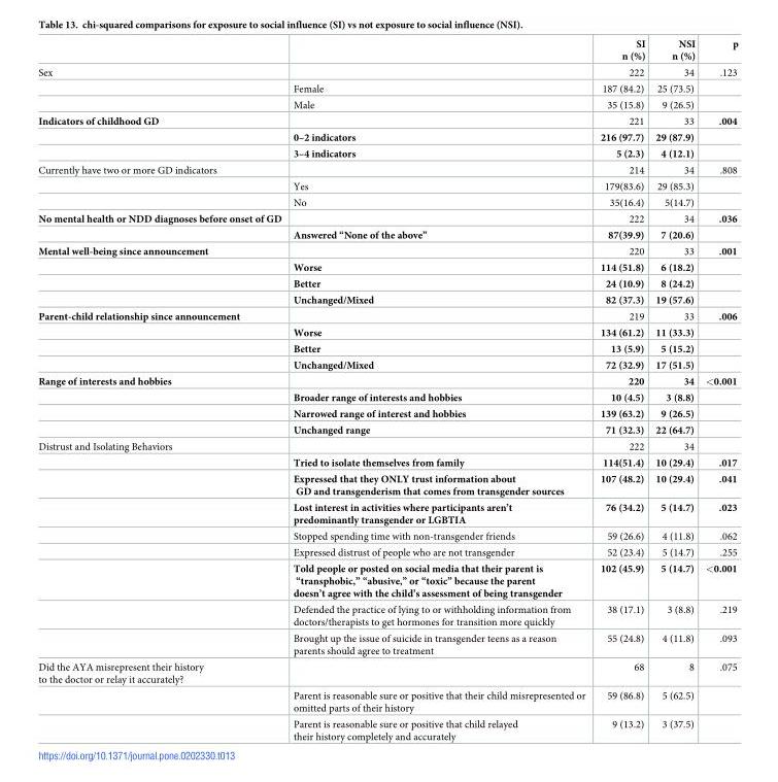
<table><thead><tr><td></td><td></td><td>SI n (%)</td><td>NSI n (%)</td><td>p</td></tr></thead><tbody><tr><td rowspan="3">Sex</td><td></td><td>222</td><td>34</td><td>.123</td></tr><tr><td>Female</td><td>187 (84.2)</td><td>25 (73.5)</td><td></td></tr><tr><td>Male</td><td>35 (15.8)</td><td>9 (26.5)</td><td></td></tr><tr><td rowspan="3">Indicators of childhood GD</td><td></td><td>221</td><td>33</td><td>.004</td></tr><tr><td>0–2 indicators</td><td>216 (97.7)</td><td>29 (87.9)</td><td></td></tr><tr><td>3–4 indicators</td><td>5 (2.3)</td><td>4 (12.1)</td><td></td></tr><tr><td rowspan="3">Currently have two or more GD indicators</td><td></td><td>214</td><td>34</td><td>.808</td></tr><tr><td>Yes</td><td>179(83.6)</td><td>29 (85.3)</td><td></td></tr><tr><td>No</td><td>35(16.4)</td><td>5(14.7)</td><td></td></tr><tr><td rowspan="2">No mental health or NDD diagnoses before onset of GD</td><td></td><td>222</td><td>34</td><td>.036</td></tr><tr><td>Answered “None of the above”</td><td>87(39.9)</td><td>7 (20.6)</td><td></td></tr><tr><td rowspan="4">Mental well-being since announcement</td><td></td><td>220</td><td>33</td><td>.001</td></tr><tr><td>Worse</td><td>114 (51.8)</td><td>6 (18.2)</td><td></td></tr><tr><td>Better</td><td>24 (10.9)</td><td>8 (24.2)</td><td></td></tr><tr><td>Unchanged/Mixed</td><td>82 (37.3)</td><td>19 (57.6)</td><td></td></tr><tr><td rowspan="4">Parent-child relationship since announcement</td><td></td><td>219</td><td>33</td><td>.006</td></tr><tr><td>Worse</td><td>134 (61.2)</td><td>11 (33.3)</td><td></td></tr><tr><td>Better</td><td>13 (5.9)</td><td>5 (15.2)</td><td></td></tr><tr><td>Unchanged/Mixed</td><td>72 (32.9)</td><td>17 (51.5)</td><td></td></tr><tr><td rowspan="4">Range of interests and hobbies</td><td></td><td>220</td><td>34</td><td>&lt;0.001</td></tr><tr><td>Broader range of interests and hobbies</td><td>10 (4.5)</td><td>3 (8.8)</td><td></td></tr><tr><td>Narrowed range of interest and hobbies</td><td>139 (63.2)</td><td>9 (26.5)</td><td></td></tr><tr><td>Unchanged range</td><td>71 (32.3)</td><td>22 (64.7)</td><td></td></tr><tr><td rowspan="9">Distrust and Isolating Behaviors</td><td></td><td>222</td><td>34</td><td></td></tr><tr><td>Tried to isolate themselves from family</td><td>114(51.4)</td><td>10 (29.4)</td><td>.017</td></tr><tr><td>Expressed that they ONLY trust information about GD and transgenderism that comes from transgender sources</td><td>107 (48.2)</td><td>10 (29.4)</td><td>.041</td></tr><tr><td>Lost interest in activities where participants aren’t predominantly transgender or LGBTIA</td><td>76 (34.2)</td><td>5 (14.7)</td><td>.023</td></tr><tr><td>Stopped spending time with non-transgender friends</td><td>59 (26.6)</td><td>4 (11.8)</td><td>.062</td></tr><tr><td>Expressed distrust of people who are not transgender</td><td>52 (23.4)</td><td>5 (14.7)</td><td>.255</td></tr><tr><td>Told people or posted on social media that their parent is “transphobic,” “abusive,” or “toxic” because the parent doesn’t agree with the child’s assessment of being transgender</td><td>102 (45.9)</td><td>5 (14.7)</td><td>&lt;0.001</td></tr><tr><td>Defended the practice of lying to or withholding information from doctors/therapists to get hormones for transition more quickly</td><td>38 (17.1)</td><td>3 (8.8)</td><td>.219</td></tr><tr><td>Brought up the issue of suicide in transgender teens as a reason parents should agree to treatment</td><td>55 (24.8)</td><td>4 (11.8)</td><td>.093</td></tr><tr><td rowspan="3">Did the AYA misrepresent their history to the doctor or relay it accurately?</td><td></td><td>68</td><td>8</td><td>.075</td></tr><tr><td>Parent is reasonable sure or positive that their child misrepresented or omitted parts of their history</td><td>59 (86.8)</td><td>5 (62.5)</td><td></td></tr><tr><td>Parent is reasonable sure or positive that child relayed their history completely and accurately</td><td>9 (13.2)</td><td>3 (37.5)</td><td></td></tr></tbody></table>